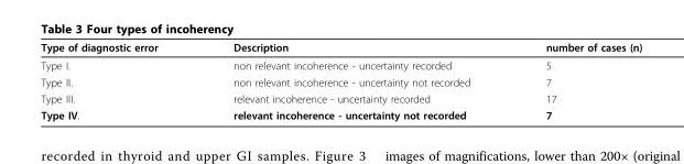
<table><thead><tr><td>Type of diagnostic error</td><td>Description</td><td>number of cases (n)</td></tr></thead><tbody><tr><td>Type I.</td><td>non relevant incoherence - uncertainty recorded</td><td>5</td></tr><tr><td>Type II.</td><td>non relevant incoherence - uncertainty not recorded</td><td>7</td></tr><tr><td>Type III.</td><td>relevant incoherence - uncertainty recorded</td><td>17</td></tr><tr><td>Type IV.</td><td>relevant incoherence - uncertainty not recorded</td><td>7</td></tr></tbody></table>